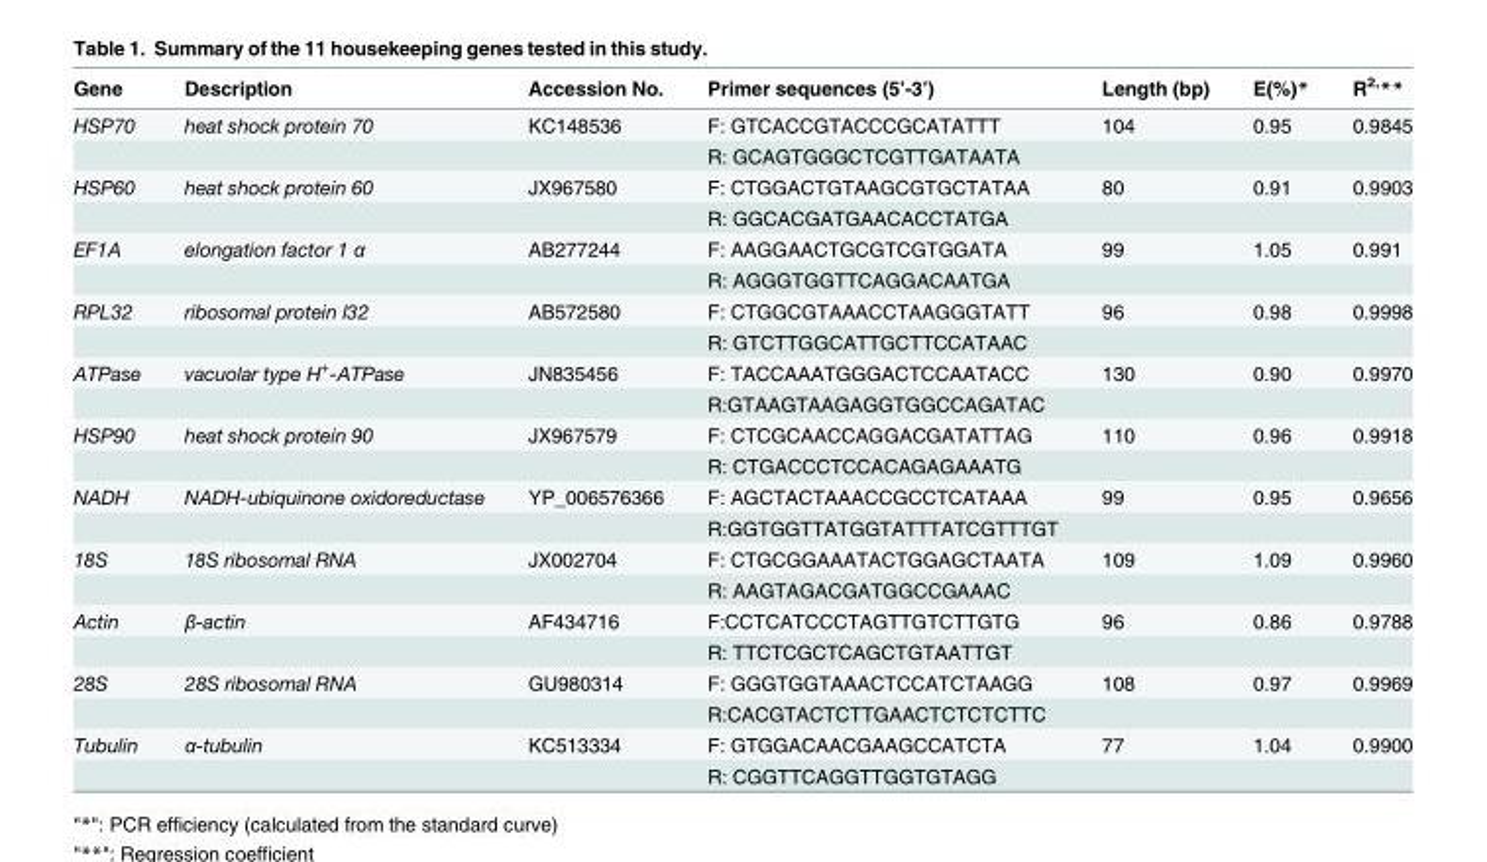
<table><thead><tr><td>Gene</td><td>Description</td><td>Accession No.</td><td>Primer sequences (5’-3’)</td><td>Length (bp)</td><td>E(%)*</td><td>R<sup>2,</sup>**</td></tr></thead><tbody><tr><td rowspan="2">HSP70</td><td>heat shock protein 70</td><td>KC148536</td><td>F: GTCACCGTACCCGCATATTT</td><td>104</td><td>0.95</td><td>0.9845</td></tr><tr><td></td><td></td><td>R: GCAGTGGGCTCGTTGATAATA</td><td></td><td></td><td></td></tr><tr><td rowspan="2">HSP60</td><td>heat shock protein 60</td><td>JX967580</td><td>F: CTGGACTGTAAGCGTGCTATAA</td><td>80</td><td>0.91</td><td>0.9903</td></tr><tr><td></td><td></td><td>R: GGCACGATGAACACCTATGA</td><td></td><td></td><td></td></tr><tr><td rowspan="2">EF1A</td><td>elongation factor 1 α</td><td>AB277244</td><td>F: AAGGAACTGCGTCGTGGATA</td><td>99</td><td>1.05</td><td>0.991</td></tr><tr><td></td><td></td><td>R: AGGGTGGTTCAGGACAATGA</td><td></td><td></td><td></td></tr><tr><td rowspan="2">RPL32</td><td>ribosomal protein l32</td><td>AB572580</td><td>F: CTGGCGTAAACCTAAGGGTATT</td><td>96</td><td>0.98</td><td>0.9998</td></tr><tr><td></td><td></td><td>R: GTCTTGGCATTGCTTCCATAAC</td><td></td><td></td><td></td></tr><tr><td rowspan="2">ATPase</td><td>vacuolar type H<sup>+</sup>-ATPase</td><td>JN835456</td><td>F: TACCAAATGGGACTCCAATACC</td><td>130</td><td>0.90</td><td>0.9970</td></tr><tr><td></td><td></td><td>R:GTAAGTAAGAGGTGGCCAGATAC</td><td></td><td></td><td></td></tr><tr><td rowspan="2">HSP90</td><td>heat shock protein 90</td><td>JX967579</td><td>F: CTCGCAACCAGGACGATATTAG</td><td>110</td><td>0.96</td><td>0.9918</td></tr><tr><td></td><td></td><td>R: CTGACCCTCCACAGAGAAATG</td><td></td><td></td><td></td></tr><tr><td rowspan="2">NADH</td><td>NADH-ubiquinone oxidoreductase</td><td>YP_006576366</td><td>F: AGCTACTAAACCGCCTCATAAA</td><td>99</td><td>0.95</td><td>0.9656</td></tr><tr><td></td><td></td><td>R:GGTGGTTATGGTATTTATCGTTTGT</td><td></td><td></td><td></td></tr><tr><td rowspan="2">18S</td><td>18S ribosomal RNA</td><td>JX002704</td><td>F: CTGCGGAAATACTGGAGCTAATA</td><td>109</td><td>1.09</td><td>0.9960</td></tr><tr><td></td><td></td><td>R: AAGTAGACGATGGCCGAAAC</td><td></td><td></td><td></td></tr><tr><td rowspan="2">Actin</td><td>β-actin</td><td>AF434716</td><td>F:CCTCATCCCTAGTTGTCTTGTG</td><td>96</td><td>0.86</td><td>0.9788</td></tr><tr><td></td><td></td><td>R: TTCTCGCTCAGCTGTAATTGT</td><td></td><td></td><td></td></tr><tr><td rowspan="2">28S</td><td>28S ribosomal RNA</td><td>GU980314</td><td>F: GGGTGGTAAACTCCATCTAAGG</td><td>108</td><td>0.97</td><td>0.9969</td></tr><tr><td></td><td></td><td>R:CACGTACTCTTGAACTCTCTCTTC</td><td></td><td></td><td></td></tr><tr><td rowspan="2">Tubulin</td><td>α-tubulin</td><td>KC513334</td><td>F: GTGGACAACGAAGCCATCTA</td><td>77</td><td>1.04</td><td>0.9900</td></tr><tr><td></td><td></td><td>R: CGGTTCAGGTTGGTGTAGG</td><td></td><td></td><td></td></tr></tbody></table>